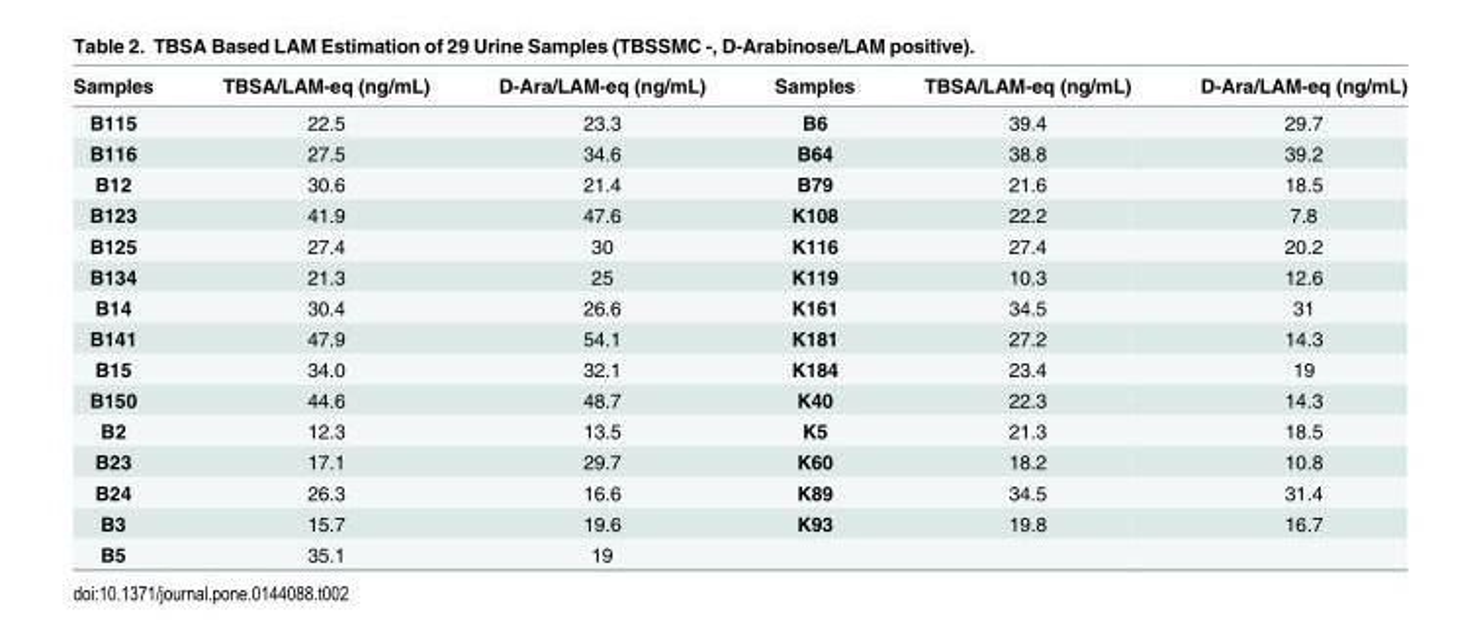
<table><thead><tr><td>Samples</td><td>TBSA/LAM-eq (ng/mL)</td><td>D-Ara/LAM-eq (ng/mL)</td><td>Samples</td><td>TBSA/LAM-eq (ng/mL)</td><td>D-Ara/LAM-eq (ng/mL)</td></tr></thead><tbody><tr><td>B115</td><td>22.5</td><td>23.3</td><td>B6</td><td>39.4</td><td>29.7</td></tr><tr><td>B116</td><td>27.5</td><td>34.6</td><td>B64</td><td>38.8</td><td>39.2</td></tr><tr><td>B12</td><td>30.6</td><td>21.4</td><td>B79</td><td>21.6</td><td>18.5</td></tr><tr><td>B123</td><td>41.9</td><td>47.6</td><td>K108</td><td>22.2</td><td>7.8</td></tr><tr><td>B125</td><td>27.4</td><td>30</td><td>K116</td><td>27.4</td><td>20.2</td></tr><tr><td>B134</td><td>21.3</td><td>25</td><td>K119</td><td>10.3</td><td>12.6</td></tr><tr><td>B14</td><td>30.4</td><td>26.6</td><td>K161</td><td>34.5</td><td>31</td></tr><tr><td>B141</td><td>47.9</td><td>54.1</td><td>K181</td><td>27.2</td><td>14.3</td></tr><tr><td>B15</td><td>34.0</td><td>32.1</td><td>K184</td><td>23.4</td><td>19</td></tr><tr><td>B150</td><td>44.6</td><td>48.7</td><td>K40</td><td>22.3</td><td>14.3</td></tr><tr><td>B2</td><td>12.3</td><td>13.5</td><td>K5</td><td>21.3</td><td>18.5</td></tr><tr><td>B23</td><td>17.1</td><td>29.7</td><td>K60</td><td>18.2</td><td>10.8</td></tr><tr><td>B24</td><td>26.3</td><td>16.6</td><td>K89</td><td>34.5</td><td>31.4</td></tr><tr><td>B3</td><td>15.7</td><td>19.6</td><td>K93</td><td>19.8</td><td>16.7</td></tr><tr><td>B5</td><td>35.1</td><td>19</td><td></td><td></td><td></td></tr></tbody></table>